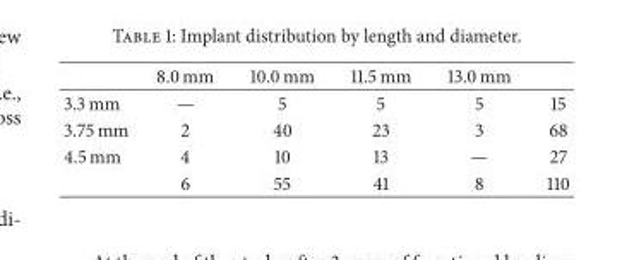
<table><thead><tr><td></td><td>8.0 mm</td><td>10.0 mm</td><td>11.5 mm</td><td>13.0 mm</td><td></td></tr></thead><tbody><tr><td>3.3 mm</td><td>—</td><td>5</td><td>5</td><td>5</td><td>15</td></tr><tr><td>3.75 mm</td><td>2</td><td>40</td><td>23</td><td>3</td><td>68</td></tr><tr><td rowspan="2">4.5 mm</td><td>4</td><td>10</td><td>13</td><td>—</td><td>27</td></tr><tr><td>6</td><td>55</td><td>41</td><td>8</td><td>110</td></tr></tbody></table>